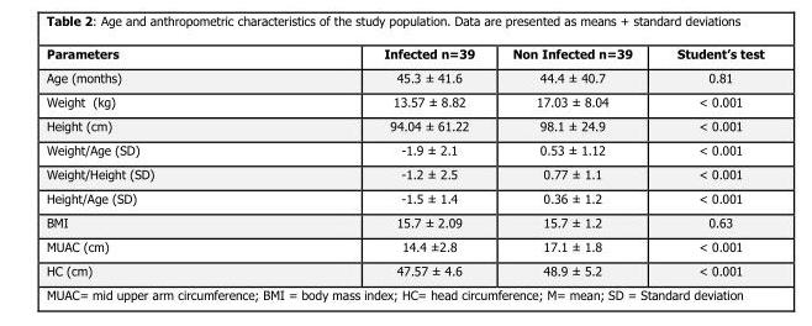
<table><thead><tr><td>Parameters</td><td>Infected n=39</td><td>Non Infected n=39</td><td>Student’s test</td></tr></thead><tbody><tr><td>Age (months)</td><td>45.3 ± 41.6</td><td>44.4 ± 40.7</td><td>0.81</td></tr><tr><td>Weight (kg)</td><td>13.57 ± 8.82</td><td>17.03 ± 8.04</td><td>&lt; 0.001</td></tr><tr><td>Height (cm)</td><td>94.04 ± 61.22</td><td>98.1 ± 24.9</td><td>&lt; 0.001</td></tr><tr><td>Weight/Age (SD)</td><td>-1.9 ± 2.1</td><td>0.53 ± 1.12</td><td>&lt; 0.001</td></tr><tr><td>Weight/Height (SD)</td><td>-1.2 ± 2.5</td><td>0.77 ± 1.1</td><td>&lt; 0.001</td></tr><tr><td>Height/Age (SD)</td><td>-1.5 ± 1.4</td><td>0.36 ± 1.2</td><td>&lt; 0.001</td></tr><tr><td>BMI</td><td>15.7 ± 2.09</td><td>15.7 ± 1.2</td><td>0.63</td></tr><tr><td>MUAC (cm)</td><td>14.4 ±2.8</td><td>17.1 ± 1.8</td><td>&lt; 0.001</td></tr><tr><td>HC (cm)</td><td>47.57 ± 4.6</td><td>48.9 ± 5.2</td><td>&lt; 0.001</td></tr></tbody></table>